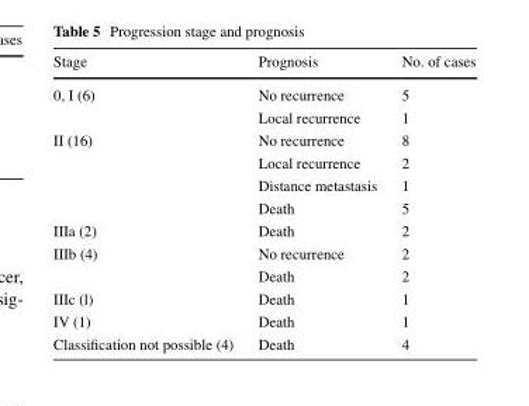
<table><thead><tr><td>Stage</td><td>Prognosis</td><td>No. of cases</td></tr></thead><tbody><tr><td rowspan="2">0, I (6)</td><td>No recurrence</td><td>5</td></tr><tr><td>Local recurrence</td><td>1</td></tr><tr><td rowspan="4">II (16)</td><td>No recurrence</td><td>8</td></tr><tr><td>Local recurrence</td><td>2</td></tr><tr><td>Distance metastasis</td><td>1</td></tr><tr><td>Death</td><td>5</td></tr><tr><td>IIIa (2)</td><td>Death</td><td>2</td></tr><tr><td rowspan="2">IIIb (4)</td><td>No recurrence</td><td>2</td></tr><tr><td>Death</td><td>2</td></tr><tr><td>IIIc (l)</td><td>Death</td><td>1</td></tr><tr><td>IV (1)</td><td>Death</td><td>1</td></tr><tr><td>Classification not possible (4)</td><td>Death</td><td>4</td></tr></tbody></table>